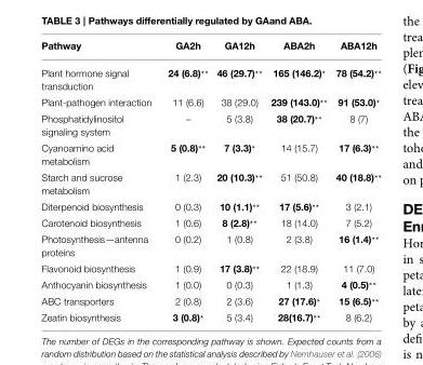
<table><thead><tr><td>Pathway</td><td>GA2h</td><td>GA12h</td><td>ABA2h</td><td>ABA12h</td></tr></thead><tbody><tr><td>Plant hormone signal transduction</td><td>24 (6.8)**</td><td>46 (29.7)**</td><td>165 (146.2)*</td><td>78 (54.2)**</td></tr><tr><td>Plant-pathogen interaction</td><td>11 (6.6)</td><td>38 (29.0)</td><td>239 (143.0)**</td><td>91 (53.0)*</td></tr><tr><td>Phosphatidylinositol signaling system</td><td>–</td><td>5 (3.8)</td><td>38 (20.7)**</td><td>8 (7)</td></tr><tr><td>Cyanoamino acid metabolism</td><td>5 (0.8)**</td><td>7 (3.3)*</td><td>14 (15.7)</td><td>17 (6.3)**</td></tr><tr><td>Starch and sucrose metabolism</td><td>1 (2.3)</td><td>20 (10.3)**</td><td>51 (50.8)</td><td>40 (18.8)**</td></tr><tr><td>Diterpenoid biosynthesis</td><td>0 (0.3)</td><td>10 (1.1)**</td><td>17 (5.6)**</td><td>3 (2.1)</td></tr><tr><td>Carotenoid biosynthesis</td><td>1 (0.6)</td><td>8 (2.8)**</td><td>18 (14.0)</td><td>7 (5.2)</td></tr><tr><td>Photosynthesis—antenna proteins</td><td>0 (0.2)</td><td>1 (0.8)</td><td>2 (3.8)</td><td>16 (1.4)**</td></tr><tr><td>Flavonoid biosynthesis</td><td>1 (0.9)</td><td>17 (3.8)**</td><td>22 (18.9)</td><td>11 (7.0)</td></tr><tr><td>Anthocyanin biosynthesis</td><td>1 (0.0)</td><td>0 (0.3)</td><td>1 (1.3)</td><td>4 (0.5)**</td></tr><tr><td>ABC transporters</td><td>2 (0.8)</td><td>2 (3.6)</td><td>27 (17.6)*</td><td>15 (6.5)**</td></tr><tr><td>Zeatin biosynthesis</td><td>3 (0.8)*</td><td>5 (3.4)</td><td>28(16.7)**</td><td>8 (6.2)</td></tr></tbody></table>